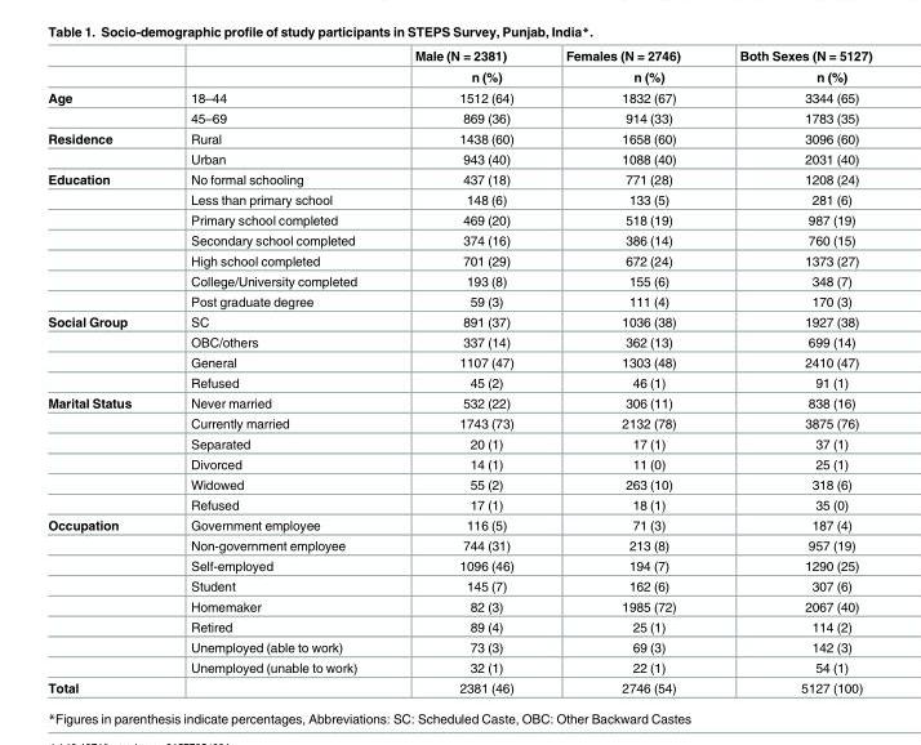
<table><thead><tr><td rowspan="2"></td><td rowspan="2"></td><td rowspan="2">Male (N = 2381) n (%)</td><td rowspan="2">Females (N = 2746) n (%)</td><td rowspan="2">Both Sexes (N = 5127) n (%)</td></tr><tr></tr></thead><tbody><tr><td rowspan="2">Age</td><td>18–44</td><td>1512 (64)</td><td>1832 (67)</td><td>3344 (65)</td></tr><tr><td>45–69</td><td>869 (36)</td><td>914 (33)</td><td>1783 (35)</td></tr><tr><td rowspan="2">Residence</td><td>Rural</td><td>1438 (60)</td><td>1658 (60)</td><td>3096 (60)</td></tr><tr><td>Urban</td><td>943 (40)</td><td>1088 (40)</td><td>2031 (40)</td></tr><tr><td rowspan="7">Education</td><td>No formal schooling</td><td>437 (18)</td><td>771 (28)</td><td>1208 (24)</td></tr><tr><td>Less than primary school</td><td>148 (6)</td><td>133 (5)</td><td>281 (6)</td></tr><tr><td>Primary school completed</td><td>469 (20)</td><td>518 (19)</td><td>987 (19)</td></tr><tr><td>Secondary school completed</td><td>374 (16)</td><td>386 (14)</td><td>760 (15)</td></tr><tr><td>High school completed</td><td>701 (29)</td><td>672 (24)</td><td>1373 (27)</td></tr><tr><td>College/University completed</td><td>193 (8)</td><td>155 (6)</td><td>348 (7)</td></tr><tr><td>Post graduate degree</td><td>59 (3)</td><td>111 (4)</td><td>170 (3)</td></tr><tr><td rowspan="4">Social Group</td><td>SC</td><td>891 (37)</td><td>1036 (38)</td><td>1927 (38)</td></tr><tr><td>OBC/others</td><td>337 (14)</td><td>362 (13)</td><td>699 (14)</td></tr><tr><td>General</td><td>1107 (47)</td><td>1303 (48)</td><td>2410 (47)</td></tr><tr><td>Refused</td><td>45 (2)</td><td>46 (1)</td><td>91 (1)</td></tr><tr><td rowspan="6">Marital Status</td><td>Never married</td><td>532 (22)</td><td>306 (11)</td><td>838 (16)</td></tr><tr><td>Currently married</td><td>1743 (73)</td><td>2132 (78)</td><td>3875 (76)</td></tr><tr><td>Separated</td><td>20 (1)</td><td>17 (1)</td><td>37 (1)</td></tr><tr><td>Divorced</td><td>14 (1)</td><td>11 (0)</td><td>25 (1)</td></tr><tr><td>Widowed</td><td>55 (2)</td><td>263 (10)</td><td>318 (6)</td></tr><tr><td>Refused</td><td>17 (1)</td><td>18 (1)</td><td>35 (0)</td></tr><tr><td rowspan="8">Occupation</td><td>Government employee</td><td>116 (5)</td><td>71 (3)</td><td>187 (4)</td></tr><tr><td>Non-government employee</td><td>744 (31)</td><td>213 (8)</td><td>957 (19)</td></tr><tr><td>Self-employed</td><td>1096 (46)</td><td>194 (7)</td><td>1290 (25)</td></tr><tr><td>Student</td><td>145 (7)</td><td>162 (6)</td><td>307 (6)</td></tr><tr><td>Homemaker</td><td>82 (3)</td><td>1985 (72)</td><td>2067 (40)</td></tr><tr><td>Retired</td><td>89 (4)</td><td>25 (1)</td><td>114 (2)</td></tr><tr><td>Unemployed (able to work)</td><td>73 (3)</td><td>69 (3)</td><td>142 (3)</td></tr><tr><td>Unemployed (unable to work)</td><td>32 (1)</td><td>22 (1)</td><td>54 (1)</td></tr><tr><td>Total</td><td></td><td>2381 (46)</td><td>2746 (54)</td><td>5127 (100)</td></tr></tbody></table>